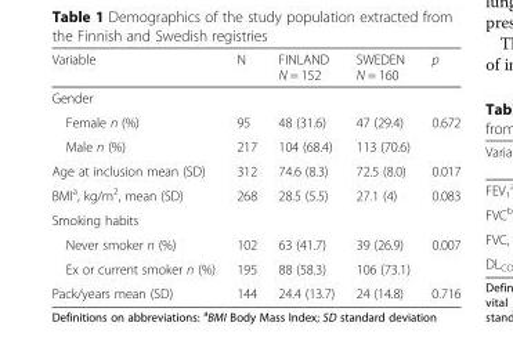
<table><thead><tr><td>Variable</td><td>N</td><td>FINLAND N = 152</td><td>SWEDEN N = 160</td><td>p</td></tr></thead><tbody><tr><td colspan="5">Gender</td></tr><tr><td>Female n (%)</td><td>95</td><td>48 (31.6)</td><td>47 (29.4)</td><td rowspan="2">0.672</td></tr><tr><td>Male n (%)</td><td>217</td><td>104 (68.4)</td><td>113 (70.6)</td></tr><tr><td>Age at inclusion mean (SD)</td><td>312</td><td>74.6 (8.3)</td><td>72.5 (8.0)</td><td>0.017</td></tr><tr><td>BMI<sup>a</sup>, kg/m<sup>2</sup>, mean (SD)</td><td>268</td><td>28.5 (5.5)</td><td>27.1 (4)</td><td>0.083</td></tr><tr><td colspan="5">Smoking habits</td></tr><tr><td>Never smoker n (%)</td><td>102</td><td>63 (41.7)</td><td>39 (26.9)</td><td rowspan="2">0.007</td></tr><tr><td>Ex or current smoker n (%)</td><td>195</td><td>88 (58.3)</td><td>106 (73.1)</td></tr><tr><td>Pack/years mean (SD)</td><td>144</td><td>24.4 (13.7)</td><td>24 (14.8)</td><td>0.716</td></tr></tbody></table>